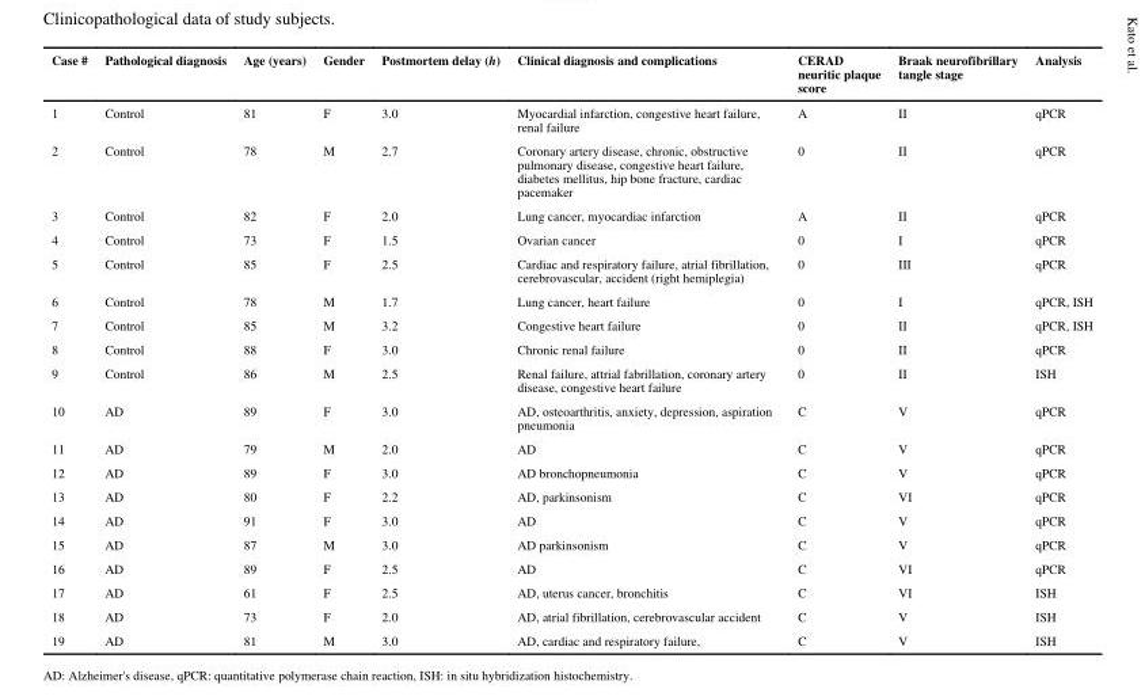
<table><thead><tr><td>Case #</td><td>Pathological diagnosis</td><td>Age (years)</td><td>Gender</td><td>Postmortem delay (h)</td><td>Clinical diagnosis and complications</td><td>CERAD neuritic plaque score</td><td>Braak neurofibrillary tangle stage</td><td>Analysis</td></tr></thead><tbody><tr><td>1</td><td>Control</td><td>81</td><td>F</td><td>3.0</td><td>Myocardial infarction, congestive heart failure, renal failure</td><td>A</td><td>II</td><td>qPCR</td></tr><tr><td>2</td><td>Control</td><td>78</td><td>M</td><td>2.7</td><td>Coronary artery disease, chronic, obstructive pulmonary disease, congestive heart failure, diabetes mellitus, hip bone fracture, cardiac pacemaker</td><td>0</td><td>II</td><td>qPCR</td></tr><tr><td>3</td><td>Control</td><td>82</td><td>F</td><td>2.0</td><td>Lung cancer, myocardiac infarction</td><td>A</td><td>II</td><td>qPCR</td></tr><tr><td>4</td><td>Control</td><td>73</td><td>F</td><td>1.5</td><td>Ovarian cancer</td><td>0</td><td>I</td><td>qPCR</td></tr><tr><td>5</td><td>Control</td><td>85</td><td>F</td><td>2.5</td><td>Cardiac and respiratory failure, atrial fibrillation, cerebrovascular, accident (right hemiplegia)</td><td>0</td><td>III</td><td>qPCR</td></tr><tr><td>6</td><td>Control</td><td>78</td><td>M</td><td>1.7</td><td>Lung cancer, heart failure</td><td>0</td><td>I</td><td>qPCR, ISH</td></tr><tr><td>7</td><td>Control</td><td>85</td><td>M</td><td>3.2</td><td>Congestive heart failure</td><td>0</td><td>II</td><td>qPCR, ISH</td></tr><tr><td>8</td><td>Control</td><td>88</td><td>F</td><td>3.0</td><td>Chronic renal failure</td><td>0</td><td>II</td><td>qPCR</td></tr><tr><td>9</td><td>Control</td><td>86</td><td>M</td><td>2.5</td><td>Renal failure, attrial fabrillation, coronary artery disease, congestive heart failure</td><td>0</td><td>II</td><td>ISH</td></tr><tr><td>10</td><td>AD</td><td>89</td><td>F</td><td>3.0</td><td>AD, osteoarthritis, anxiety, depression, aspiration pneumonia</td><td>C</td><td>V</td><td>qPCR</td></tr><tr><td>11</td><td>AD</td><td>79</td><td>M</td><td>2.0</td><td>AD</td><td>C</td><td>V</td><td>qPCR</td></tr><tr><td>12</td><td>AD</td><td>89</td><td>F</td><td>3.0</td><td>AD bronchopneumonia</td><td>C</td><td>V</td><td>qPCR</td></tr><tr><td>13</td><td>AD</td><td>80</td><td>F</td><td>2.2</td><td>AD, parkinsonism</td><td>C</td><td>VI</td><td>qPCR</td></tr><tr><td>14</td><td>AD</td><td>91</td><td>F</td><td>3.0</td><td>AD</td><td>C</td><td>V</td><td>qPCR</td></tr><tr><td>15</td><td>AD</td><td>87</td><td>M</td><td>3.0</td><td>AD parkinsonism</td><td>C</td><td>V</td><td>qPCR</td></tr><tr><td>16</td><td>AD</td><td>89</td><td>F</td><td>2.5</td><td>AD</td><td>C</td><td>VI</td><td>qPCR</td></tr><tr><td>17</td><td>AD</td><td>61</td><td>F</td><td>2.5</td><td>AD, uterus cancer, bronchitis</td><td>C</td><td>VI</td><td>ISH</td></tr><tr><td>18</td><td>AD</td><td>73</td><td>F</td><td>2.0</td><td>AD, atrial fibrillation, cerebrovascular accident</td><td>C</td><td>V</td><td>ISH</td></tr><tr><td>19</td><td>AD</td><td>81</td><td>M</td><td>3.0</td><td>AD, cardiac and respiratory failure,</td><td>C</td><td>V</td><td>ISH</td></tr></tbody></table>